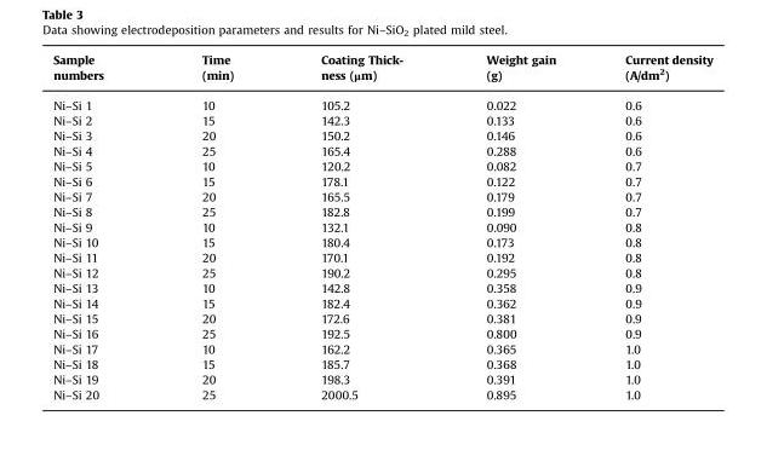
<table><thead><tr><td>Sample numbers</td><td>Time (min)</td><td>Coating Thick- ness (μm)</td><td>Weight gain (g)</td><td>Current density (A/dm<sup>2</sup>)</td></tr></thead><tbody><tr><td>Ni–Si 1</td><td>10</td><td>105.2</td><td>0.022</td><td>0.6</td></tr><tr><td>Ni–Si 2</td><td>15</td><td>142.3</td><td>0.133</td><td>0.6</td></tr><tr><td>Ni–Si 3</td><td>20</td><td>150.2</td><td>0.146</td><td>0.6</td></tr><tr><td>Ni–Si 4</td><td>25</td><td>165.4</td><td>0.288</td><td>0.6</td></tr><tr><td>Ni–Si 5</td><td>10</td><td>120.2</td><td>0.082</td><td>0.7</td></tr><tr><td>Ni–Si 6</td><td>15</td><td>178.1</td><td>0.122</td><td>0.7</td></tr><tr><td>Ni–Si 7</td><td>20</td><td>165.5</td><td>0.179</td><td>0.7</td></tr><tr><td>Ni–Si 8</td><td>25</td><td>182.8</td><td>0.199</td><td>0.7</td></tr><tr><td>Ni–Si 9</td><td>10</td><td>132.1</td><td>0.090</td><td>0.8</td></tr><tr><td>Ni–Si 10</td><td>15</td><td>180.4</td><td>0.173</td><td>0.8</td></tr><tr><td>Ni–Si 11</td><td>20</td><td>170.1</td><td>0.192</td><td>0.8</td></tr><tr><td>Ni–Si 12</td><td>25</td><td>190.2</td><td>0.295</td><td>0.8</td></tr><tr><td>Ni–Si 13</td><td>10</td><td>142.8</td><td>0.358</td><td>0.9</td></tr><tr><td>Ni–Si 14</td><td>15</td><td>182.4</td><td>0.362</td><td>0.9</td></tr><tr><td>Ni–Si 15</td><td>20</td><td>172.6</td><td>0.381</td><td>0.9</td></tr><tr><td>Ni–Si 16</td><td>25</td><td>192.5</td><td>0.800</td><td>0.9</td></tr><tr><td>Ni–Si 17</td><td>10</td><td>162.2</td><td>0.365</td><td>1.0</td></tr><tr><td>Ni–Si 18</td><td>15</td><td>185.7</td><td>0.368</td><td>1.0</td></tr><tr><td>Ni–Si 19</td><td>20</td><td>198.3</td><td>0.391</td><td>1.0</td></tr><tr><td>Ni–Si 20</td><td>25</td><td>2000.5</td><td>0.895</td><td>1.0</td></tr></tbody></table>